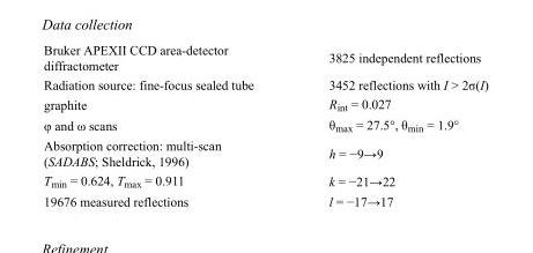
<table><tbody><tr><td>Bruker APEXII CCD area-detector diffractometer</td><td>3825 independent reflections</td></tr><tr><td>Radiation source: fine-focus sealed tube</td><td>3452 reflections with I &gt; 2σ(I)</td></tr><tr><td>graphite</td><td>R<sub>int</sub> = 0.027</td></tr><tr><td>φ and ω scans</td><td>θ<sub>max</sub> = 27.5°, θ<sub>min</sub> = 1.9°</td></tr><tr><td>Absorption correction: multi-scan (SADABS; Sheldrick, 1996)</td><td>h = −9→9</td></tr><tr><td>T<sub>min</sub> = 0.624, T<sub>max</sub> = 0.911</td><td>k = −21→22</td></tr><tr><td>19676 measured reflections</td><td>l = −17→17</td></tr></tbody></table>